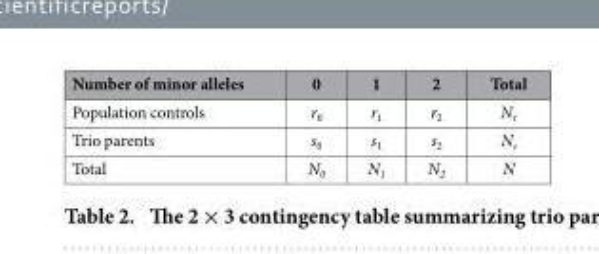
<table><thead><tr><td>Number of minor alleles</td><td>0</td><td>1</td><td>2</td><td>Total</td></tr></thead><tbody><tr><td>Population controls</td><td>r<sub>0</sub></td><td>r<sub>1</sub></td><td>r<sub>2</sub></td><td>N<sub>r</sub></td></tr><tr><td>Trio parents</td><td>s<sub>0</sub></td><td>s<sub>1</sub></td><td>s<sub>2</sub></td><td>N<sub>s</sub></td></tr><tr><td>Total</td><td>N<sub>0</sub></td><td>N<sub>1</sub></td><td>N<sub>2</sub></td><td>N</td></tr></tbody></table>